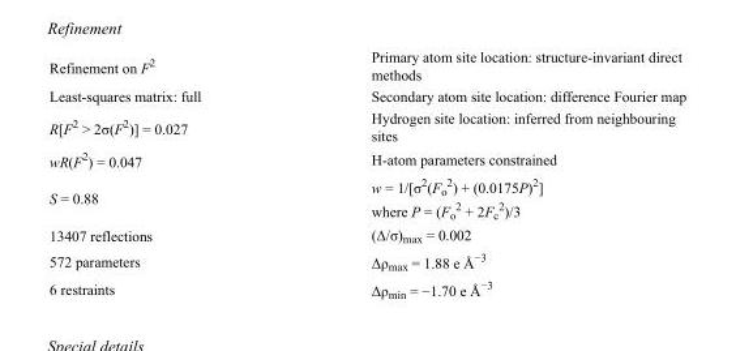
<table><tbody><tr><td>Refinement on F<sup>2</sup></td><td>Primary atom site location: structure-invariant direct methods</td></tr><tr><td>Least-squares matrix: full</td><td>Secondary atom site location: difference Fourier map</td></tr><tr><td>R[F<sup>2</sup> &gt; 2σ(F<sup>2</sup>)] = 0.027</td><td>Hydrogen site location: inferred from neighbouring sites</td></tr><tr><td>wR(F<sup>2</sup>) = 0.047</td><td>H-atom parameters constrained</td></tr><tr><td>S = 0.88</td><td>w = 1/[σ<sup>2</sup>(F<sub>o</sub> <sup>2</sup>) + (0.0175P)<sup>2</sup>] where P = (F<sub>o</sub> <sup>2</sup> + 2F<sub>c</sub> <sup>2</sup>)/3</td></tr><tr><td>13407 reflections</td><td>(Δ/σ)<sub>max</sub> = 0.002</td></tr><tr><td>572 parameters</td><td>Δρ<sub>max</sub> = 1.88 e Å<sup>−3</sup></td></tr><tr><td>6 restraints</td><td>Δρ<sub>min</sub> = −1.70 e Å<sup>−3</sup></td></tr></tbody></table>